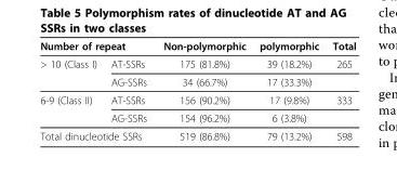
<table><thead><tr><td colspan="2">Number of repeat</td><td rowspan="2">Non-polymorphic 175 (81.8%)</td><td rowspan="2">polymorphic 39 (18.2%)</td><td rowspan="2">Total 265</td></tr><tr><td>&gt; 10 (Class I)</td><td>AT-SSRs</td></tr></thead><tbody><tr><td></td><td>AG-SSRs</td><td>34 (66.7%)</td><td>17 (33.3%)</td><td></td></tr><tr><td rowspan="2">6-9 (Class II)</td><td>AT-SSRs</td><td>156 (90.2%)</td><td>17 (9.8%)</td><td>333</td></tr><tr><td>AG-SSRs</td><td>154 (96.2%)</td><td>6 (3.8%)</td><td></td></tr><tr><td colspan="2">Total dinucleotide SSRs</td><td>519 (86.8%)</td><td>79 (13.2%)</td><td>598</td></tr></tbody></table>